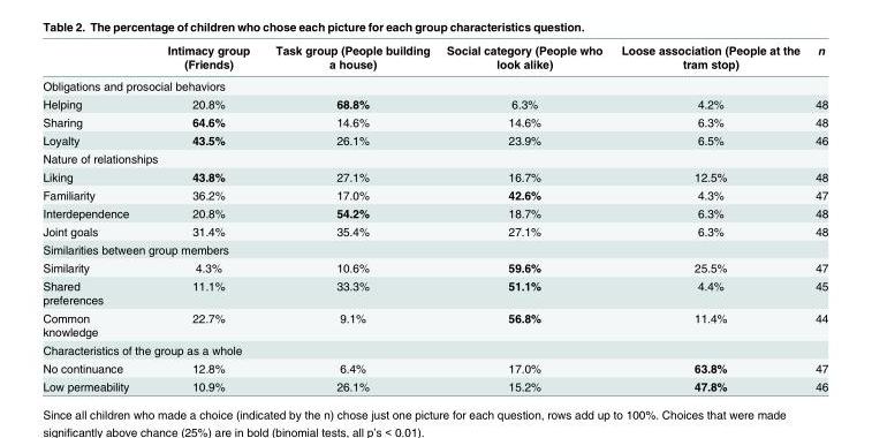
<table><thead><tr><td></td><td>Intimacy group (Friends)</td><td>Task group (People building a house)</td><td>Social category (People who look alike)</td><td>Loose association (People at the tram stop)</td><td>n</td></tr></thead><tbody><tr><td colspan="6">Obligations and prosocial behaviors</td></tr><tr><td>Helping</td><td>20.8%</td><td>68.8%</td><td>6.3%</td><td>4.2%</td><td>48</td></tr><tr><td>Sharing</td><td>64.6%</td><td>14.6%</td><td>14.6%</td><td>6.3%</td><td>48</td></tr><tr><td>Loyalty</td><td>43.5%</td><td>26.1%</td><td>23.9%</td><td>6.5%</td><td>46</td></tr><tr><td colspan="6">Nature of relationships</td></tr><tr><td>Liking</td><td>43.8%</td><td>27.1%</td><td>16.7%</td><td>12.5%</td><td>48</td></tr><tr><td>Familiarity</td><td>36.2%</td><td>17.0%</td><td>42.6%</td><td>4.3%</td><td>47</td></tr><tr><td>Interdependence</td><td>20.8%</td><td>54.2%</td><td>18.7%</td><td>6.3%</td><td>48</td></tr><tr><td>Joint goals</td><td>31.4%</td><td>35.4%</td><td>27.1%</td><td>6.3%</td><td>48</td></tr><tr><td colspan="6">Similarities between group members</td></tr><tr><td>Similarity</td><td>4.3%</td><td>10.6%</td><td>59.6%</td><td>25.5%</td><td>47</td></tr><tr><td>Shared preferences</td><td>11.1%</td><td>33.3%</td><td>51.1%</td><td>4.4%</td><td>45</td></tr><tr><td>Common knowledge</td><td>22.7%</td><td>9.1%</td><td>56.8%</td><td>11.4%</td><td>44</td></tr><tr><td colspan="6">Characteristics of the group as a whole</td></tr><tr><td>No continuance</td><td>12.8%</td><td>6.4%</td><td>17.0%</td><td>63.8%</td><td>47</td></tr><tr><td>Low permeability</td><td>10.9%</td><td>26.1%</td><td>15.2%</td><td>47.8%</td><td>46</td></tr></tbody></table>